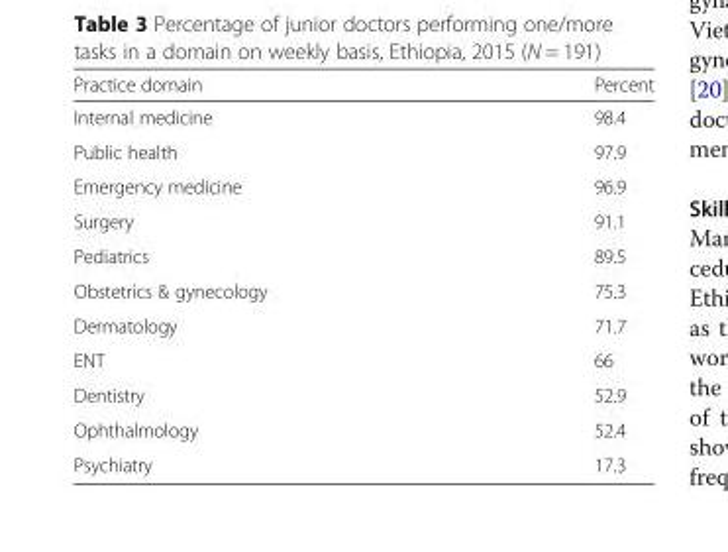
<table><thead><tr><td>Practice domain</td><td>Percent</td></tr></thead><tbody><tr><td>Internal medicine</td><td>98.4</td></tr><tr><td>Public health</td><td>97.9</td></tr><tr><td>Emergency medicine</td><td>96.9</td></tr><tr><td>Surgery</td><td>91.1</td></tr><tr><td>Pediatrics</td><td>89.5</td></tr><tr><td>Obstetrics &amp; gynecology</td><td>75.3</td></tr><tr><td>Dermatology</td><td>71.7</td></tr><tr><td>ENT</td><td>66</td></tr><tr><td>Dentistry</td><td>52.9</td></tr><tr><td>Ophthalmology</td><td>52.4</td></tr><tr><td>Psychiatry</td><td>17.3</td></tr></tbody></table>